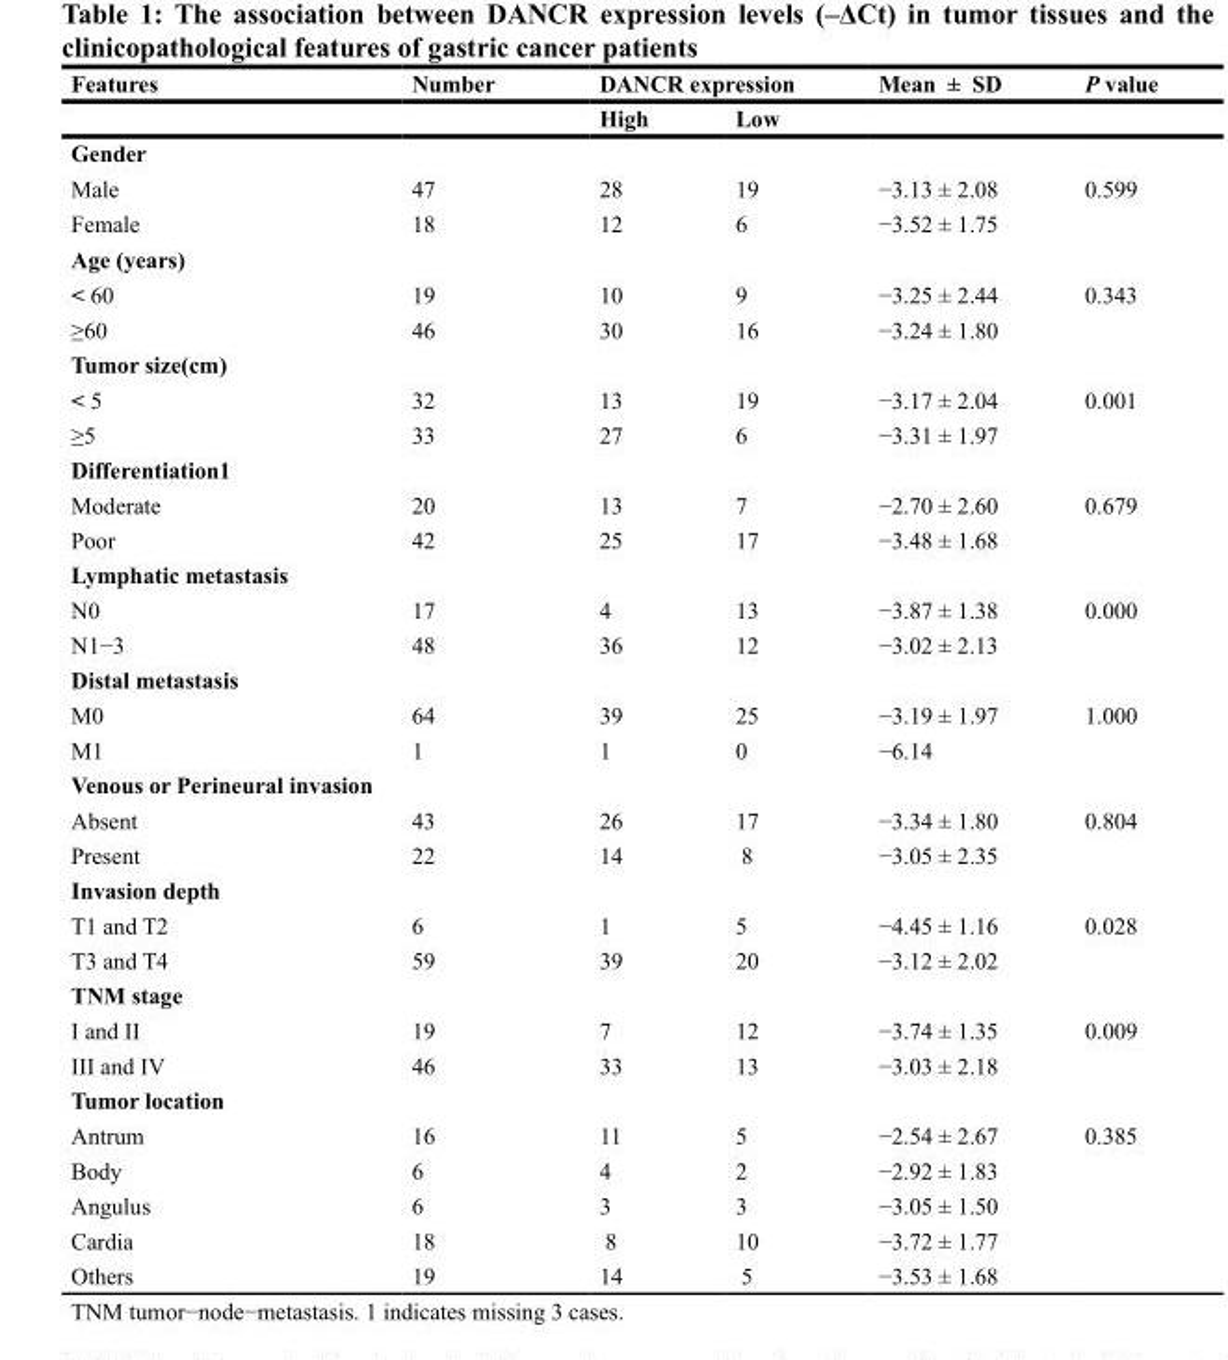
<table><thead><tr><td rowspan="2">Features</td><td rowspan="2">Number</td><td colspan="2">DANCR expression</td><td rowspan="2">Mean ± SD</td><td rowspan="2">P value</td></tr><tr><td>High</td><td>Low</td></tr></thead><tbody><tr><td colspan="6">Gender</td></tr><tr><td>Male</td><td>47</td><td>28</td><td>19</td><td>−3.13 ± 2.08</td><td>0.599</td></tr><tr><td>Female</td><td>18</td><td>12</td><td>6</td><td>−3.52 ± 1.75</td><td></td></tr><tr><td colspan="6">Age (years)</td></tr><tr><td>&lt; 60</td><td>19</td><td>10</td><td>9</td><td>−3.25 ± 2.44</td><td>0.343</td></tr><tr><td>≥60</td><td>46</td><td>30</td><td>16</td><td>−3.24 ± 1.80</td><td></td></tr><tr><td colspan="6">Tumor size(cm)</td></tr><tr><td>&lt; 5</td><td>32</td><td>13</td><td>19</td><td>−3.17 ± 2.04</td><td>0.001</td></tr><tr><td>≥5</td><td>33</td><td>27</td><td>6</td><td>−3.31 ± 1.97</td><td></td></tr><tr><td colspan="6">Differentiation1</td></tr><tr><td>Moderate</td><td>20</td><td>13</td><td>7</td><td>−2.70 ± 2.60</td><td>0.679</td></tr><tr><td>Poor</td><td>42</td><td>25</td><td>17</td><td>−3.48 ± 1.68</td><td></td></tr><tr><td colspan="6">Lymphatic metastasis</td></tr><tr><td>N0</td><td>17</td><td>4</td><td>13</td><td>−3.87 ± 1.38</td><td>0.000</td></tr><tr><td>N1−3</td><td>48</td><td>36</td><td>12</td><td>−3.02 ± 2.13</td><td></td></tr><tr><td colspan="6">Distal metastasis</td></tr><tr><td>M0</td><td>64</td><td>39</td><td>25</td><td>−3.19 ± 1.97</td><td>1.000</td></tr><tr><td>M1</td><td>1</td><td>1</td><td>0</td><td>−6.14</td><td></td></tr><tr><td colspan="6">Venous or Perineural invasion</td></tr><tr><td>Absent</td><td>43</td><td>26</td><td>17</td><td>−3.34 ± 1.80</td><td>0.804</td></tr><tr><td>Present</td><td>22</td><td>14</td><td>8</td><td>−3.05 ± 2.35</td><td></td></tr><tr><td colspan="6">Invasion depth</td></tr><tr><td>T1 and T2</td><td>6</td><td>1</td><td>5</td><td>−4.45 ± 1.16</td><td>0.028</td></tr><tr><td>T3 and T4</td><td>59</td><td>39</td><td>20</td><td>−3.12 ± 2.02</td><td></td></tr><tr><td colspan="6">TNM stage</td></tr><tr><td>I and II</td><td>19</td><td>7</td><td>12</td><td>−3.74 ± 1.35</td><td>0.009</td></tr><tr><td>III and IV</td><td>46</td><td>33</td><td>13</td><td>−3.03 ± 2.18</td><td></td></tr><tr><td colspan="6">Tumor location</td></tr><tr><td>Antrum</td><td>16</td><td>11</td><td>5</td><td>−2.54 ± 2.67</td><td>0.385</td></tr><tr><td>Body</td><td>6</td><td>4</td><td>2</td><td>−2.92 ± 1.83</td><td></td></tr><tr><td>Angulus</td><td>6</td><td>3</td><td>3</td><td>−3.05 ± 1.50</td><td></td></tr><tr><td>Cardia</td><td>18</td><td>8</td><td>10</td><td>−3.72 ± 1.77</td><td></td></tr><tr><td>Others</td><td>19</td><td>14</td><td>5</td><td>−3.53 ± 1.68</td><td></td></tr></tbody></table>